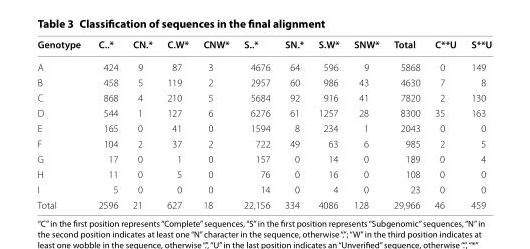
<table><thead><tr><td>Genotype</td><td>C..*</td><td>CN.*</td><td>C.W*</td><td>CNW*</td><td>S..*</td><td>SN.*</td><td>S.W*</td><td>SNW*</td><td>Total</td><td>C**U</td><td>S**U</td></tr></thead><tbody><tr><td>A</td><td>424</td><td>9</td><td>87</td><td>3</td><td>4676</td><td>64</td><td>596</td><td>9</td><td>5868</td><td>0</td><td>149</td></tr><tr><td>B</td><td>458</td><td>5</td><td>119</td><td>2</td><td>2957</td><td>60</td><td>986</td><td>43</td><td>4630</td><td>7</td><td>8</td></tr><tr><td>C</td><td>868</td><td>4</td><td>210</td><td>5</td><td>5684</td><td>92</td><td>916</td><td>41</td><td>7820</td><td>2</td><td>130</td></tr><tr><td>D</td><td>544</td><td>1</td><td>127</td><td>6</td><td>6276</td><td>61</td><td>1257</td><td>28</td><td>8300</td><td>35</td><td>163</td></tr><tr><td>E</td><td>165</td><td>0</td><td>41</td><td>0</td><td>1594</td><td>8</td><td>234</td><td>1</td><td>2043</td><td>0</td><td>0</td></tr><tr><td>F</td><td>104</td><td>2</td><td>37</td><td>2</td><td>722</td><td>49</td><td>63</td><td>6</td><td>985</td><td>2</td><td>5</td></tr><tr><td>G</td><td>17</td><td>0</td><td>1</td><td>0</td><td>157</td><td>0</td><td>14</td><td>0</td><td>189</td><td>0</td><td>4</td></tr><tr><td>H</td><td>11</td><td>0</td><td>5</td><td>0</td><td>76</td><td>0</td><td>16</td><td>0</td><td>108</td><td>0</td><td>0</td></tr><tr><td>I</td><td>5</td><td>0</td><td>0</td><td>0</td><td>14</td><td>0</td><td>4</td><td>0</td><td>23</td><td>0</td><td>0</td></tr><tr><td>Total</td><td>2596</td><td>21</td><td>627</td><td>18</td><td>22,156</td><td>334</td><td>4086</td><td>128</td><td>29,966</td><td>46</td><td>459</td></tr></tbody></table>